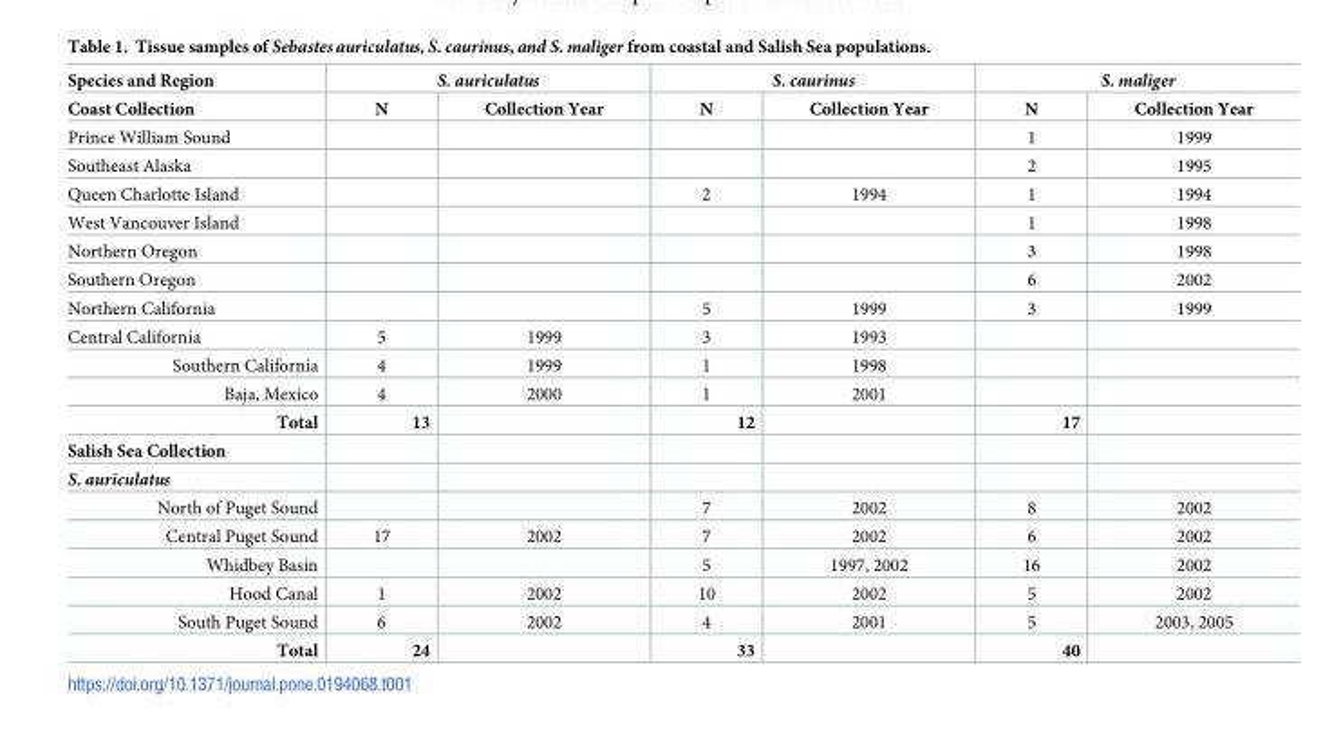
<table><thead><tr><td rowspan="2">Species and Region Coast Collection</td><td colspan="2">S. auriculatus</td><td colspan="2">S. caurinus</td><td colspan="2">S. maliger</td></tr><tr><td>N</td><td>Collection Year</td><td>N</td><td>Collection Year</td><td>N</td><td>Collection Year</td></tr></thead><tbody><tr><td>Prince William Sound</td><td></td><td></td><td></td><td></td><td>1</td><td>1999</td></tr><tr><td>Southeast Alaska</td><td></td><td></td><td></td><td></td><td>2</td><td>1995</td></tr><tr><td>Queen Charlotte Island</td><td></td><td></td><td>2</td><td>1994</td><td>1</td><td>1994</td></tr><tr><td>West Vancouver Island</td><td></td><td></td><td></td><td></td><td>1</td><td>1998</td></tr><tr><td>Northern Oregon</td><td></td><td></td><td></td><td></td><td>3</td><td>1998</td></tr><tr><td>Southern Oregon</td><td></td><td></td><td></td><td></td><td>6</td><td>2002</td></tr><tr><td>Northern California</td><td></td><td></td><td>5</td><td>1999</td><td>3</td><td>1999</td></tr><tr><td>Central California</td><td>5</td><td>1999</td><td>3</td><td>1993</td><td></td><td></td></tr><tr><td>Southern California</td><td>4</td><td>1999</td><td>1</td><td>1998</td><td></td><td></td></tr><tr><td>Baja, Mexico</td><td>4</td><td>2000</td><td>1</td><td>2001</td><td></td><td></td></tr><tr><td>Total</td><td>13</td><td></td><td>12</td><td></td><td>17</td><td></td></tr><tr><td colspan="7">Salish Sea Collection</td></tr><tr><td colspan="7">S. auriculatus</td></tr><tr><td>North of Puget Sound</td><td></td><td></td><td>7</td><td>2002</td><td>8</td><td>2002</td></tr><tr><td>Central Puget Sound</td><td>17</td><td>2002</td><td>7</td><td>2002</td><td>6</td><td>2002</td></tr><tr><td>Whidbey Basin</td><td></td><td></td><td>5</td><td>1997, 2002</td><td>16</td><td>2002</td></tr><tr><td>Hood Canal</td><td>1</td><td>2002</td><td>10</td><td>2002</td><td>5</td><td>2002</td></tr><tr><td>South Puget Sound</td><td>6</td><td>2002</td><td>4</td><td>2001</td><td>5</td><td>2003, 2005</td></tr><tr><td>Total</td><td>24</td><td></td><td>33</td><td></td><td>40</td><td></td></tr></tbody></table>